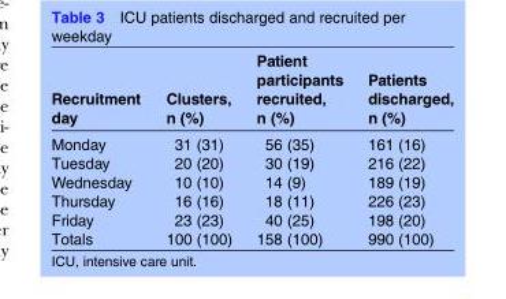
<table><thead><tr><td>Recruitment day</td><td>Clusters, n (%)</td><td>Patient participants recruited, n (%)</td><td>Patients discharged, n (%)</td></tr></thead><tbody><tr><td>Monday</td><td>31 (31)</td><td>56 (35)</td><td>161 (16)</td></tr><tr><td>Tuesday</td><td>20 (20)</td><td>30 (19)</td><td>216 (22)</td></tr><tr><td>Wednesday</td><td>10 (10)</td><td>14 (9)</td><td>189 (19)</td></tr><tr><td>Thursday</td><td>16 (16)</td><td>18 (11)</td><td>226 (23)</td></tr><tr><td>Friday</td><td>23 (23)</td><td>40 (25)</td><td>198 (20)</td></tr><tr><td>Totals</td><td>100 (100)</td><td>158 (100)</td><td>990 (100)</td></tr></tbody></table>